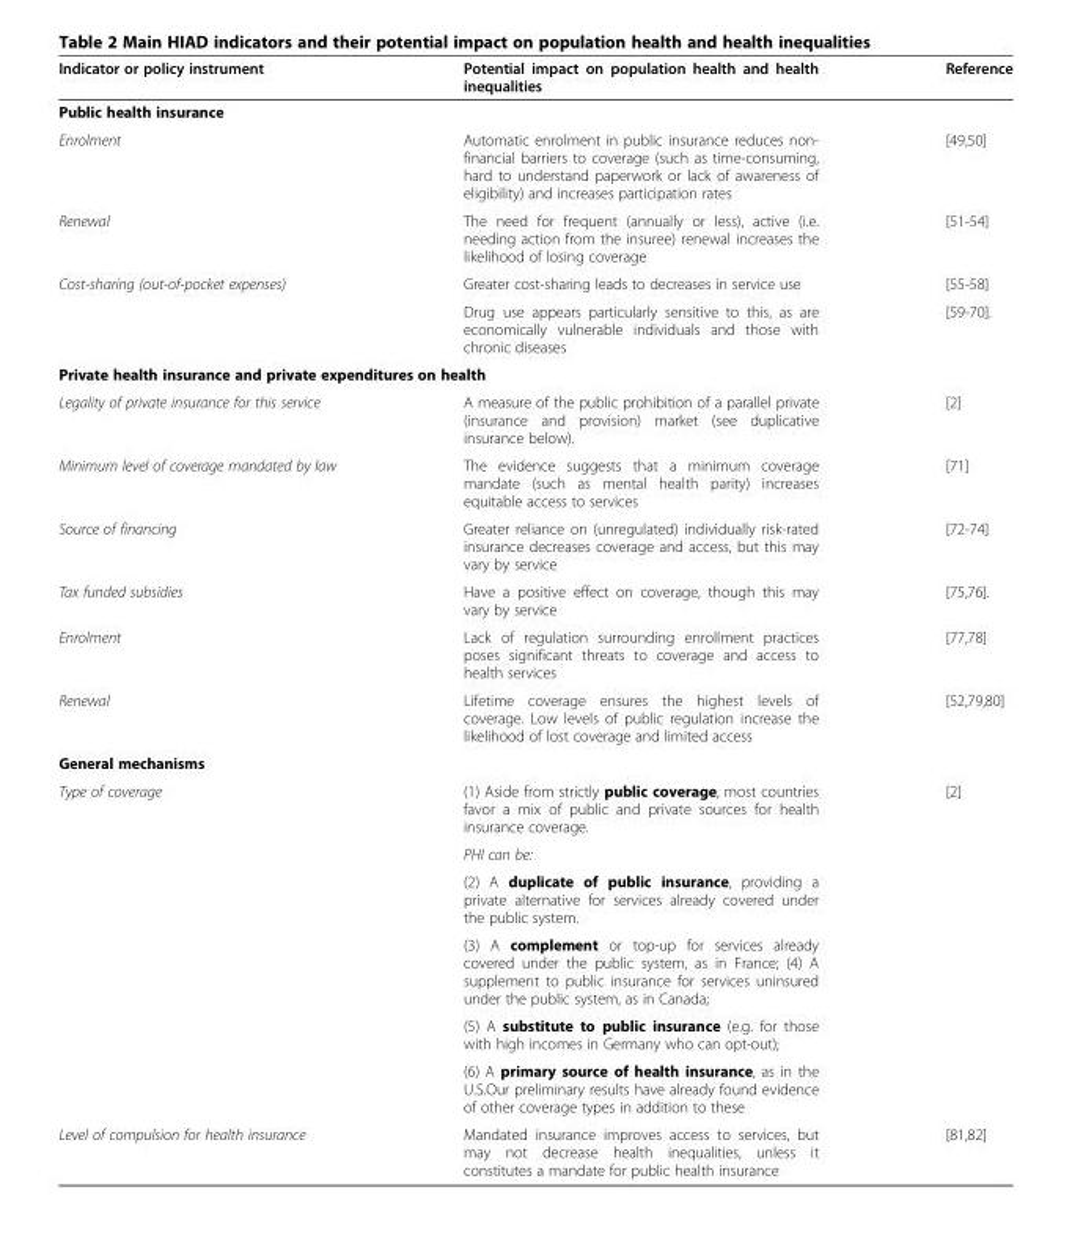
<table><thead><tr><td>Indicator or policy instrument</td><td>Potential impact on population health and health inequalities</td><td>Reference</td></tr></thead><tbody><tr><td colspan="3">Public health insurance</td></tr><tr><td>Enrolment</td><td>Automatic enrolment in public insurance reduces non- financial barriers to coverage (such as time-consuming, hard to understand paperwork or lack of awareness of eligibility) and increases participation rates</td><td>[49,50]</td></tr><tr><td>Renewal</td><td>The need for frequent (annually or less), active (i.e. needing action from the insuree) renewal increases the likelihood of losing coverage</td><td>[51-54]</td></tr><tr><td rowspan="2">Cost-sharing (out-of-pocket expenses)</td><td>Greater cost-sharing leads to decreases in service use</td><td>[55-58]</td></tr><tr><td>Drug use appears particularly sensitive to this, as are economically vulnerable individuals and those with chronic diseases</td><td>[59-70].</td></tr><tr><td colspan="3">Private health insurance and private expenditures on health</td></tr><tr><td>Legality of private insurance for this service</td><td>A measure of the public prohibition of a parallel private (insurance and provision) market (see duplicative insurance below).</td><td>[2]</td></tr><tr><td>Minimum level of coverage mandated by law</td><td>The evidence suggests that a minimum coverage mandate (such as mental health parity) increases equitable access to services</td><td>[71]</td></tr><tr><td>Source of financing</td><td>Greater reliance on (unregulated) individually risk-rated insurance decreases coverage and access, but this may vary by service</td><td>[72-74]</td></tr><tr><td>Tax funded subsidies</td><td>Have a positive effect on coverage, though this may vary by service</td><td>[75,76].</td></tr><tr><td>Enrolment</td><td>Lack of regulation surrounding enrollment practices poses significant threats to coverage and access to health services</td><td>[77,78]</td></tr><tr><td>Renewal</td><td>Lifetime coverage ensures the highest levels of coverage. Low levels of public regulation increase the likelihood of lost coverage and limited access</td><td>[52,79,80]</td></tr><tr><td colspan="3">General mechanisms</td></tr><tr><td rowspan="6">Type of coverage</td><td>(1) Aside from strictly public coverage, most countries favor a mix of public and private sources for health insurance coverage.</td><td>[2]</td></tr><tr><td>PHI can be:</td><td></td></tr><tr><td>(2) A duplicate of public insurance, providing a private alternative for services already covered under the public system.</td><td></td></tr><tr><td>(3) A complement or top-up for services already covered under the public system, as in France; (4) A supplement to public insurance for services uninsured under the public system, as in Canada;</td><td></td></tr><tr><td>(5) A substitute to public insurance (e.g. for those with high incomes in Germany who can opt-out);</td><td></td></tr><tr><td>(6) A primary source of health insurance, as in the U.S.Our preliminary results have already found evidence of other coverage types in addition to these</td><td></td></tr><tr><td>Level of compulsion for health insurance</td><td>Mandated insurance improves access to services, but may not decrease health inequalities, unless it constitutes a mandate for public health insurance</td><td>[81,82]</td></tr></tbody></table>